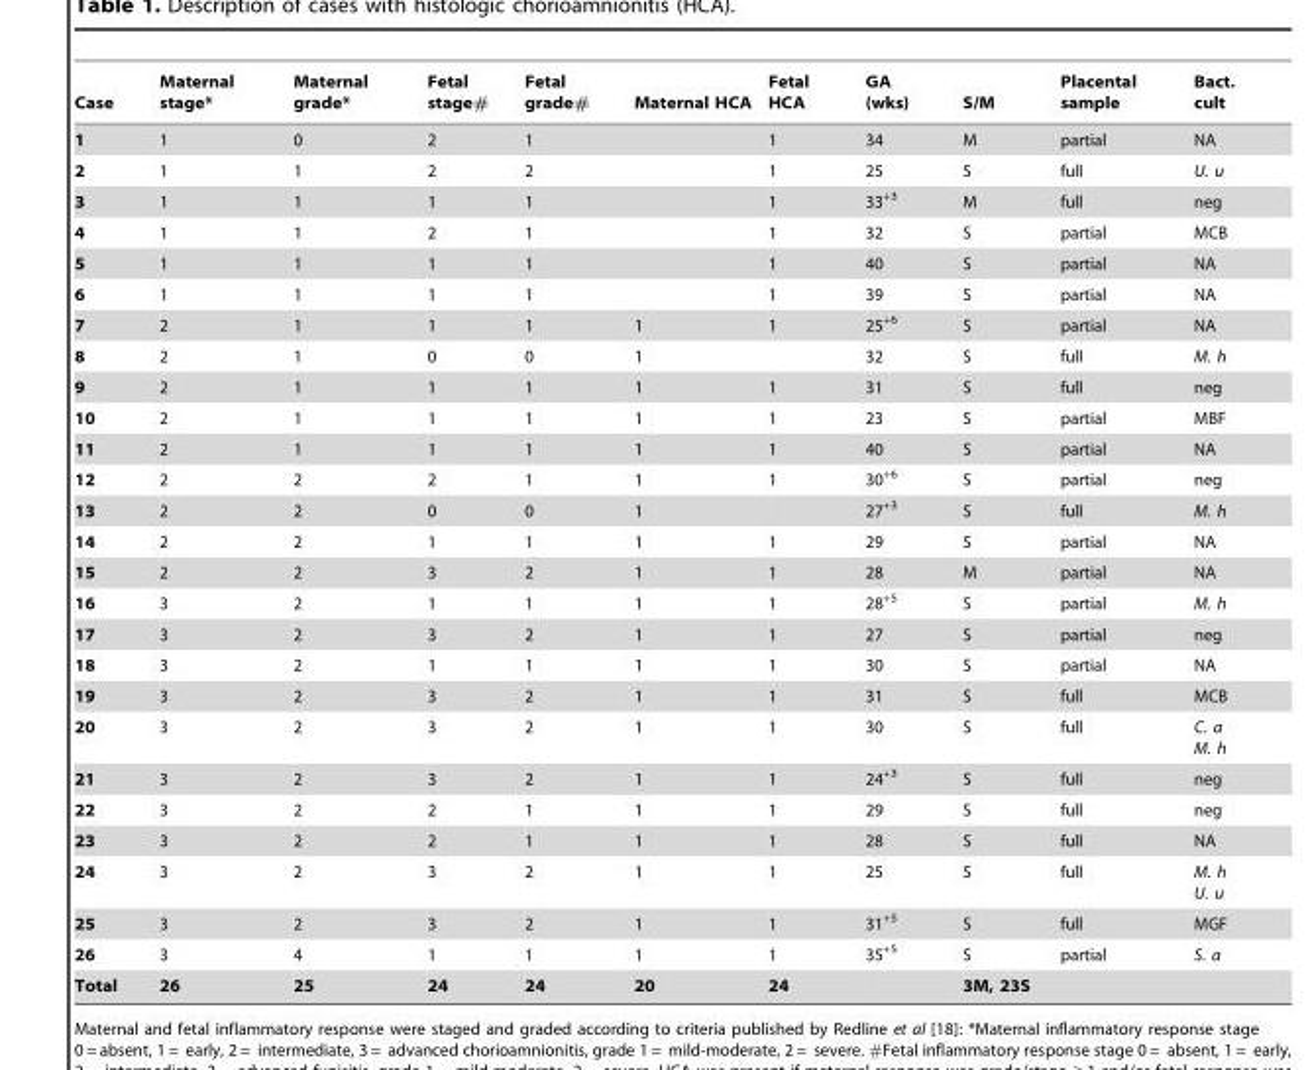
<table><thead><tr><td>Case</td><td>Maternal stage*</td><td>Maternal grade*</td><td>Fetal stage#</td><td>Fetal grade#</td><td>Maternal HCA</td><td>Fetal HCA</td><td>GA (wks)</td><td>S/M</td><td>Placental sample</td><td>Bact. cult</td></tr></thead><tbody><tr><td>1</td><td>1</td><td>0</td><td>2</td><td>1</td><td></td><td>1</td><td>34</td><td>M</td><td>partial</td><td>NA</td></tr><tr><td>2</td><td>1</td><td>1</td><td>2</td><td>2</td><td></td><td>1</td><td>25</td><td>S</td><td>full</td><td>U. u</td></tr><tr><td>3</td><td>1</td><td>1</td><td>1</td><td>1</td><td></td><td>1</td><td>33<sup>+3</sup></td><td>M</td><td>full</td><td>neg</td></tr><tr><td>4</td><td>1</td><td>1</td><td>2</td><td>1</td><td></td><td>1</td><td>32</td><td>S</td><td>partial</td><td>MCB</td></tr><tr><td>5</td><td>1</td><td>1</td><td>1</td><td>1</td><td></td><td>1</td><td>40</td><td>S</td><td>partial</td><td>NA</td></tr><tr><td>6</td><td>1</td><td>1</td><td>1</td><td>1</td><td></td><td>1</td><td>39</td><td>S</td><td>partial</td><td>NA</td></tr><tr><td>7</td><td>2</td><td>1</td><td>1</td><td>1</td><td>1</td><td>1</td><td>25<sup>+6</sup></td><td>S</td><td>partial</td><td>NA</td></tr><tr><td>8</td><td>2</td><td>1</td><td>0</td><td>0</td><td>1</td><td></td><td>32</td><td>S</td><td>full</td><td>M. h</td></tr><tr><td>9</td><td>2</td><td>1</td><td>1</td><td>1</td><td>1</td><td>1</td><td>31</td><td>S</td><td>full</td><td>neg</td></tr><tr><td>10</td><td>2</td><td>1</td><td>1</td><td>1</td><td>1</td><td>1</td><td>23</td><td>S</td><td>partial</td><td>MBF</td></tr><tr><td>11</td><td>2</td><td>1</td><td>1</td><td>1</td><td>1</td><td>1</td><td>40</td><td>S</td><td>partial</td><td>NA</td></tr><tr><td>12</td><td>2</td><td>2</td><td>2</td><td>1</td><td>1</td><td>1</td><td>30<sup>+6</sup></td><td>S</td><td>partial</td><td>neg</td></tr><tr><td>13</td><td>2</td><td>2</td><td>0</td><td>0</td><td>1</td><td></td><td>27<sup>+3</sup></td><td>S</td><td>full</td><td>M. h</td></tr><tr><td>14</td><td>2</td><td>2</td><td>1</td><td>1</td><td>1</td><td>1</td><td>29</td><td>S</td><td>partial</td><td>NA</td></tr><tr><td>15</td><td>2</td><td>2</td><td>3</td><td>2</td><td>1</td><td>1</td><td>28</td><td>M</td><td>partial</td><td>NA</td></tr><tr><td>16</td><td>3</td><td>2</td><td>1</td><td>1</td><td>1</td><td>1</td><td>28<sup>+5</sup></td><td>S</td><td>partial</td><td>M. h</td></tr><tr><td>17</td><td>3</td><td>2</td><td>3</td><td>2</td><td>1</td><td>1</td><td>27</td><td>S</td><td>partial</td><td>neg</td></tr><tr><td>18</td><td>3</td><td>2</td><td>1</td><td>1</td><td>1</td><td>1</td><td>30</td><td>S</td><td>partial</td><td>NA</td></tr><tr><td>19</td><td>3</td><td>2</td><td>3</td><td>2</td><td>1</td><td>1</td><td>31</td><td>S</td><td>full</td><td>MCB</td></tr><tr><td>20</td><td>3</td><td>2</td><td>3</td><td>2</td><td>1</td><td>1</td><td>30</td><td>S</td><td>full</td><td>C. a M. h</td></tr><tr><td>21</td><td>3</td><td>2</td><td>3</td><td>2</td><td>1</td><td>1</td><td>24<sup>+3</sup></td><td>S</td><td>full</td><td>neg</td></tr><tr><td>22</td><td>3</td><td>2</td><td>2</td><td>1</td><td>1</td><td>1</td><td>29</td><td>S</td><td>full</td><td>neg</td></tr><tr><td>23</td><td>3</td><td>2</td><td>2</td><td>1</td><td>1</td><td>1</td><td>28</td><td>S</td><td>full</td><td>NA</td></tr><tr><td>24</td><td>3</td><td>2</td><td>3</td><td>2</td><td>1</td><td>1</td><td>25</td><td>S</td><td>full</td><td>M. h U. u</td></tr><tr><td>25</td><td>3</td><td>2</td><td>3</td><td>2</td><td>1</td><td>1</td><td>31<sup>+5</sup></td><td>S</td><td>full</td><td>MGF</td></tr><tr><td>26</td><td>3</td><td>4</td><td>1</td><td>1</td><td>1</td><td>1</td><td>35<sup>+5</sup></td><td>S</td><td>partial</td><td>S. a</td></tr><tr><td>Total</td><td>26</td><td>25</td><td>24</td><td>24</td><td>20</td><td>24</td><td></td><td>3M, 23S</td><td></td><td></td></tr></tbody></table>